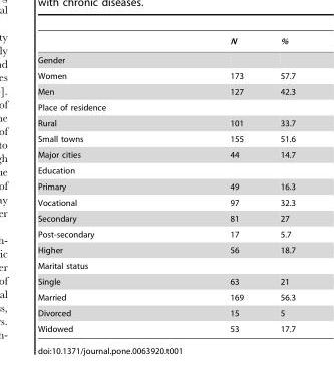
<table><thead><tr><td></td><td>N</td><td>%</td></tr></thead><tbody><tr><td colspan="3">Gender</td></tr><tr><td>Women</td><td>173</td><td>57.7</td></tr><tr><td>Men</td><td>127</td><td>42.3</td></tr><tr><td colspan="3">Place of residence</td></tr><tr><td>Rural</td><td>101</td><td>33.7</td></tr><tr><td>Small towns</td><td>155</td><td>51.6</td></tr><tr><td>Major cities</td><td>44</td><td>14.7</td></tr><tr><td colspan="3">Education</td></tr><tr><td>Primary</td><td>49</td><td>16.3</td></tr><tr><td>Vocational</td><td>97</td><td>32.3</td></tr><tr><td>Secondary</td><td>81</td><td>27</td></tr><tr><td>Post-secondary</td><td>17</td><td>5.7</td></tr><tr><td>Higher</td><td>56</td><td>18.7</td></tr><tr><td colspan="3">Marital status</td></tr><tr><td>Single</td><td>63</td><td>21</td></tr><tr><td>Married</td><td>169</td><td>56.3</td></tr><tr><td>Divorced</td><td>15</td><td>5</td></tr><tr><td>Widowed</td><td>53</td><td>17.7</td></tr></tbody></table>